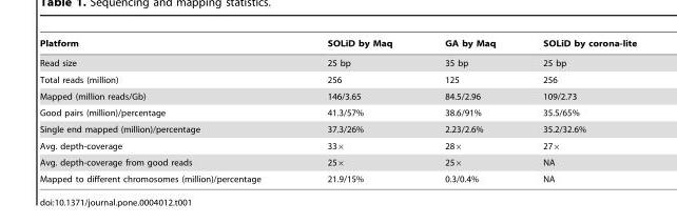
<table><thead><tr><td>Platform</td><td>SOLiD by Maq</td><td>GA by Maq</td><td>SOLiD by corona-lite</td></tr></thead><tbody><tr><td>Read size</td><td>25 bp</td><td>35 bp</td><td>25 bp</td></tr><tr><td>Total reads (million)</td><td>256</td><td>125</td><td>256</td></tr><tr><td>Mapped (million reads/Gb)</td><td>146/3.65</td><td>84.5/2.96</td><td>109/2.73</td></tr><tr><td>Good pairs (million)/percentage</td><td>41.3/57%</td><td>38.6/91%</td><td>35.5/65%</td></tr><tr><td>Single end mapped (million)/percentage</td><td>37.3/26%</td><td>2.23/2.6%</td><td>35.2/32.6%</td></tr><tr><td>Avg. depth-coverage</td><td>33×</td><td>28×</td><td>27×</td></tr><tr><td>Avg. depth-coverage from good reads</td><td>25×</td><td>25×</td><td>NA</td></tr><tr><td>Mapped to different chromosomes (million)/percentage</td><td>21.9/15%</td><td>0.3/0.4%</td><td>NA</td></tr></tbody></table>